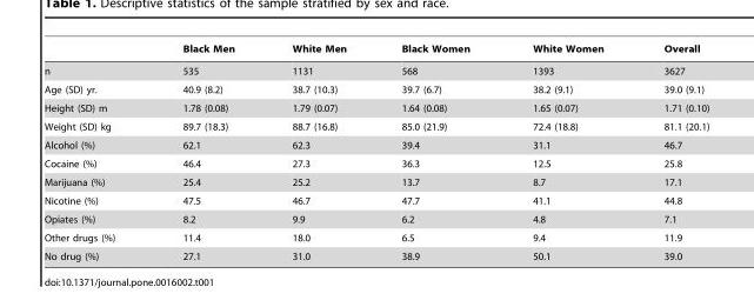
<table><thead><tr><td></td><td>Black Men</td><td>White Men</td><td>Black Women</td><td>White Women</td><td>Overall</td></tr></thead><tbody><tr><td>n</td><td>535</td><td>1131</td><td>568</td><td>1393</td><td>3627</td></tr><tr><td>Age (SD) yr.</td><td>40.9 (8.2)</td><td>38.7 (10.3)</td><td>39.7 (6.7)</td><td>38.2 (9.1)</td><td>39.0 (9.1)</td></tr><tr><td>Height (SD) m</td><td>1.78 (0.08)</td><td>1.79 (0.07)</td><td>1.64 (0.08)</td><td>1.65 (0.07)</td><td>1.71 (0.10)</td></tr><tr><td>Weight (SD) kg</td><td>89.7 (18.3)</td><td>88.7 (16.8)</td><td>85.0 (21.9)</td><td>72.4 (18.8)</td><td>81.1 (20.1)</td></tr><tr><td>Alcohol (%)</td><td>62.1</td><td>62.3</td><td>39.4</td><td>31.1</td><td>46.7</td></tr><tr><td>Cocaine (%)</td><td>46.4</td><td>27.3</td><td>36.3</td><td>12.5</td><td>25.8</td></tr><tr><td>Marijuana (%)</td><td>25.4</td><td>25.2</td><td>13.7</td><td>8.7</td><td>17.1</td></tr><tr><td>Nicotine (%)</td><td>47.5</td><td>46.7</td><td>47.7</td><td>41.1</td><td>44.8</td></tr><tr><td>Opiates (%)</td><td>8.2</td><td>9.9</td><td>6.2</td><td>4.8</td><td>7.1</td></tr><tr><td>Other drugs (%)</td><td>11.4</td><td>18.0</td><td>6.5</td><td>9.4</td><td>11.9</td></tr><tr><td>No drug (%)</td><td>27.1</td><td>31.0</td><td>38.9</td><td>50.1</td><td>39.0</td></tr></tbody></table>